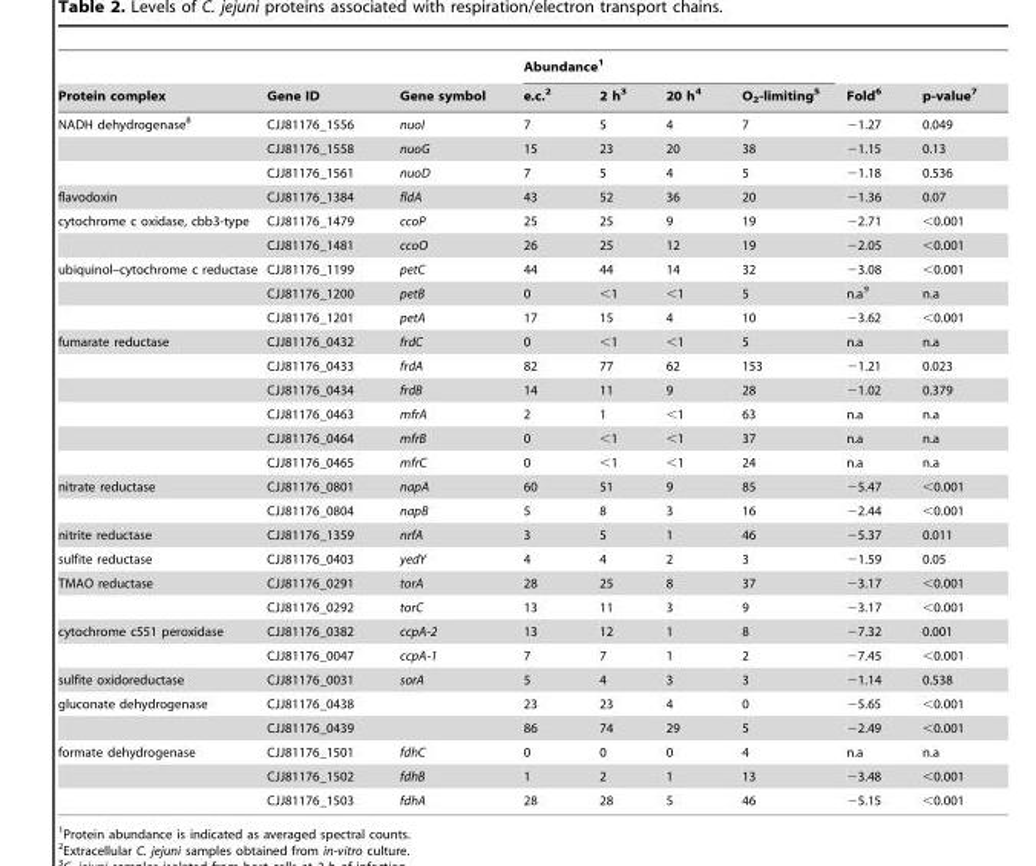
<table><thead><tr><td rowspan="2">Protein complex</td><td rowspan="2">Gene ID</td><td rowspan="2">Gene symbol</td><td colspan="4">Abundance<sup>1</sup></td><td rowspan="2">Fold<sup>6</sup></td><td rowspan="2">p-value<sup>7</sup></td></tr><tr><td>e.c.<sup>2</sup></td><td>2 h<sup>3</sup></td><td>20 h<sup>4</sup></td><td>O<sub>2</sub>-limiting<sup>5</sup></td></tr></thead><tbody><tr><td rowspan="3">NADH dehydrogenase<sup>8</sup></td><td>CJJ81176_1556</td><td>nuoI</td><td>7</td><td>5</td><td>4</td><td>7</td><td>−1.27</td><td>0.049</td></tr><tr><td>CJJ81176_1558</td><td>nuoG</td><td>15</td><td>23</td><td>20</td><td>38</td><td>−1.15</td><td>0.13</td></tr><tr><td>CJJ81176_1561</td><td>nuoD</td><td>7</td><td>5</td><td>4</td><td>5</td><td>−1.18</td><td>0.536</td></tr><tr><td>flavodoxin</td><td>CJJ81176_1384</td><td>fldA</td><td>43</td><td>52</td><td>36</td><td>20</td><td>−1.36</td><td>0.07</td></tr><tr><td rowspan="2">cytochrome c oxidase, cbb3-type</td><td>CJJ81176_1479</td><td>ccoP</td><td>25</td><td>25</td><td>9</td><td>19</td><td>−2.71</td><td>&lt;0.001</td></tr><tr><td>CJJ81176_1481</td><td>ccoO</td><td>26</td><td>25</td><td>12</td><td>19</td><td>−2.05</td><td>&lt;0.001</td></tr><tr><td rowspan="3">ubiquinol–cytochrome c reductase</td><td>CJJ81176_1199</td><td>petC</td><td>44</td><td>44</td><td>14</td><td>32</td><td>−3.08</td><td>&lt;0.001</td></tr><tr><td>CJJ81176_1200</td><td>petB</td><td>0</td><td>&lt;1</td><td>&lt;1</td><td>5</td><td>n.a<sup>9</sup></td><td>n.a</td></tr><tr><td>CJJ81176_1201</td><td>petA</td><td>17</td><td>15</td><td>4</td><td>10</td><td>−3.62</td><td>&lt;0.001</td></tr><tr><td rowspan="6">fumarate reductase</td><td>CJJ81176_0432</td><td>frdC</td><td>0</td><td>&lt;1</td><td>&lt;1</td><td>5</td><td>n.a</td><td>n.a</td></tr><tr><td>CJJ81176_0433</td><td>frdA</td><td>82</td><td>77</td><td>62</td><td>153</td><td>−1.21</td><td>0.023</td></tr><tr><td>CJJ81176_0434</td><td>frdB</td><td>14</td><td>11</td><td>9</td><td>28</td><td>−1.02</td><td>0.379</td></tr><tr><td>CJJ81176_0463</td><td>mfrA</td><td>2</td><td>1</td><td>&lt;1</td><td>63</td><td>n.a</td><td>n.a</td></tr><tr><td>CJJ81176_0464</td><td>mfrB</td><td>0</td><td>&lt;1</td><td>&lt;1</td><td>37</td><td>n.a</td><td>n.a</td></tr><tr><td>CJJ81176_0465</td><td>mfrC</td><td>0</td><td>&lt;1</td><td>&lt;1</td><td>24</td><td>n.a</td><td>n.a</td></tr><tr><td rowspan="2">nitrate reductase</td><td>CJJ81176_0801</td><td>napA</td><td>60</td><td>51</td><td>9</td><td>85</td><td>−5.47</td><td>&lt;0.001</td></tr><tr><td>CJJ81176_0804</td><td>napB</td><td>5</td><td>8</td><td>3</td><td>16</td><td>−2.44</td><td>&lt;0.001</td></tr><tr><td>nitrite reductase</td><td>CJJ81176_1359</td><td>nrfA</td><td>3</td><td>5</td><td>1</td><td>46</td><td>−5.37</td><td>0.011</td></tr><tr><td>sulfite reductase</td><td>CJJ81176_0403</td><td>yedY</td><td>4</td><td>4</td><td>2</td><td>3</td><td>−1.59</td><td>0.05</td></tr><tr><td rowspan="2">TMAO reductase</td><td>CJJ81176_0291</td><td>torA</td><td>28</td><td>25</td><td>8</td><td>37</td><td>−3.17</td><td>&lt;0.001</td></tr><tr><td>CJJ81176_0292</td><td>torC</td><td>13</td><td>11</td><td>3</td><td>9</td><td>−3.17</td><td>&lt;0.001</td></tr><tr><td rowspan="2">cytochrome c551 peroxidase</td><td>CJJ81176_0382</td><td>ccpA-2</td><td>13</td><td>12</td><td>1</td><td>8</td><td>−7.32</td><td>0.001</td></tr><tr><td>CJJ81176_0047</td><td>ccpA-1</td><td>7</td><td>7</td><td>1</td><td>2</td><td>−7.45</td><td>&lt;0.001</td></tr><tr><td>sulfite oxidoreductase</td><td>CJJ81176_0031</td><td>sorA</td><td>5</td><td>4</td><td>3</td><td>3</td><td>−1.14</td><td>0.538</td></tr><tr><td rowspan="2">gluconate dehydrogenase</td><td>CJJ81176_0438</td><td></td><td>23</td><td>23</td><td>4</td><td>0</td><td>−5.65</td><td>&lt;0.001</td></tr><tr><td>CJJ81176_0439</td><td></td><td>86</td><td>74</td><td>29</td><td>5</td><td>−2.49</td><td>&lt;0.001</td></tr><tr><td rowspan="3">formate dehydrogenase</td><td>CJJ81176_1501</td><td>fdhC</td><td>0</td><td>0</td><td>0</td><td>4</td><td>n.a</td><td>n.a</td></tr><tr><td>CJJ81176_1502</td><td>fdhB</td><td>1</td><td>2</td><td>1</td><td>13</td><td>−3.48</td><td>&lt;0.001</td></tr><tr><td>CJJ81176_1503</td><td>fdhA</td><td>28</td><td>28</td><td>5</td><td>46</td><td>−5.15</td><td>&lt;0.001</td></tr></tbody></table>